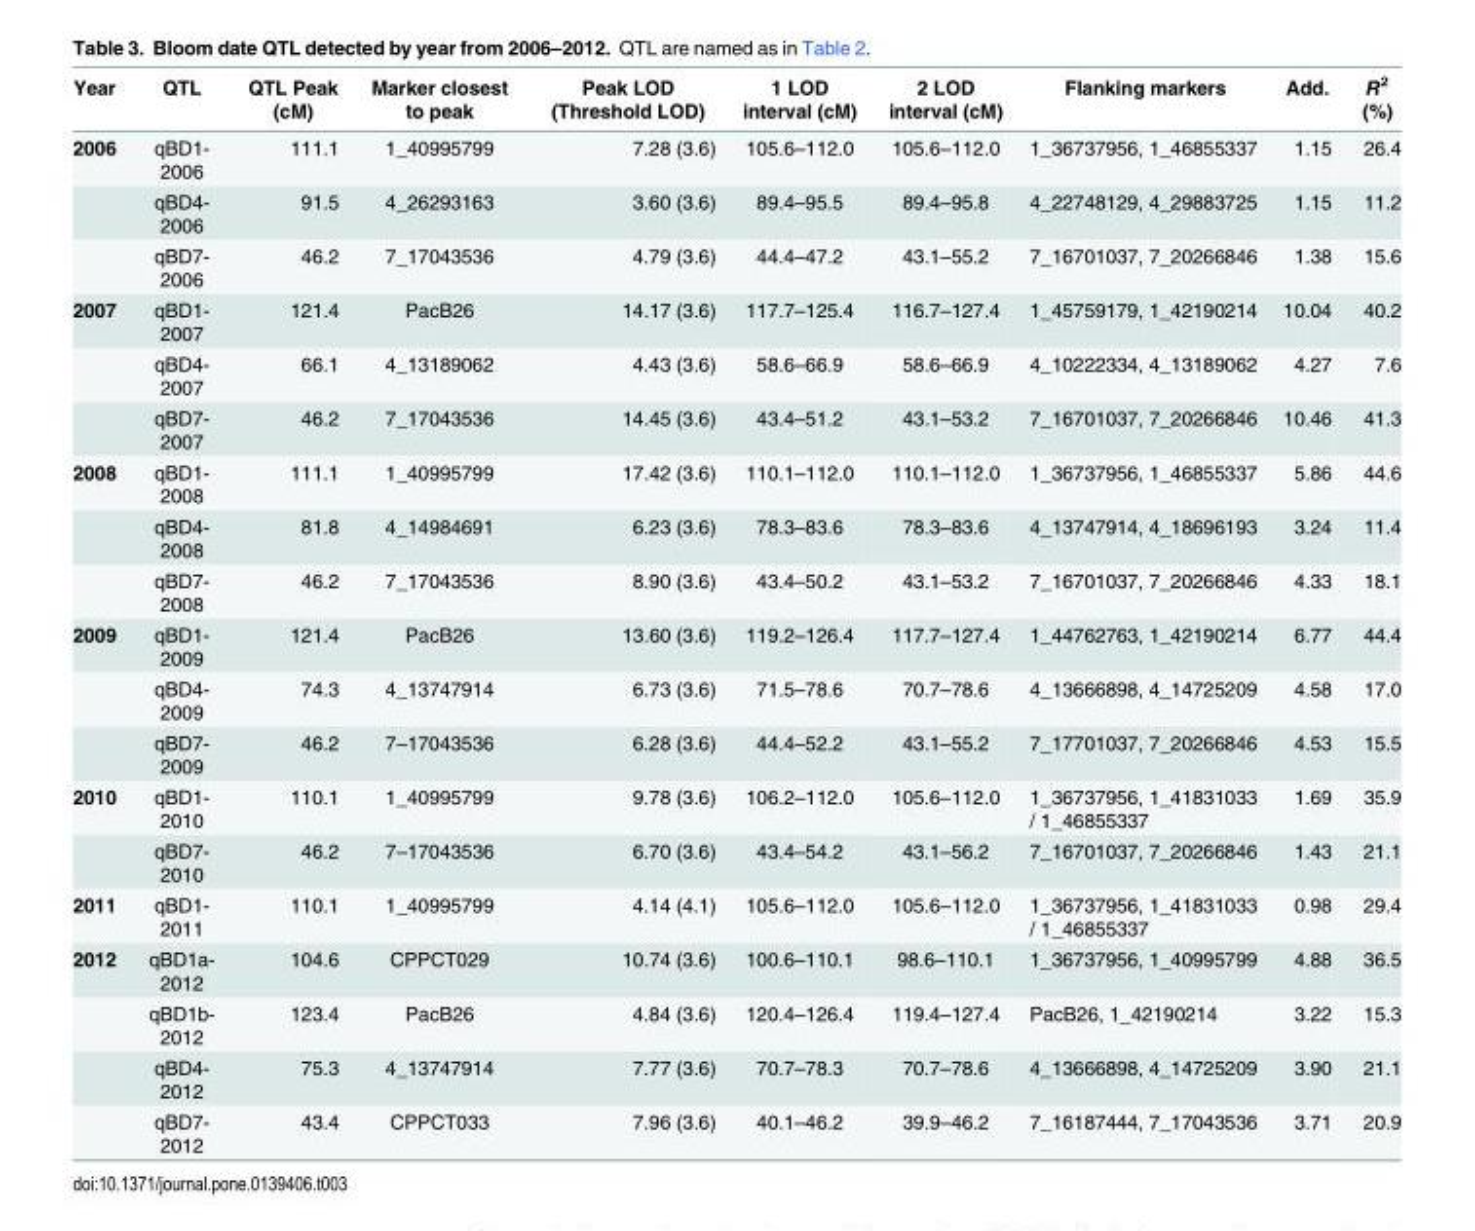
<table><thead><tr><td>Year</td><td>QTL</td><td>QTL Peak (cM)</td><td>Marker closest to peak</td><td>Peak LOD (Threshold LOD)</td><td>1 LOD interval (cM)</td><td>2 LOD interval (cM)</td><td>Flanking markers</td><td>Add.</td><td>R<sup>2</sup> (%)</td></tr></thead><tbody><tr><td rowspan="3">2006</td><td>qBD1- 2006</td><td>111.1</td><td>1_40995799</td><td>7.28 (3.6)</td><td>105.6–112.0</td><td>105.6–112.0</td><td>1_36737956, 1_46855337</td><td>1.15</td><td>26.4</td></tr><tr><td>qBD4- 2006</td><td>91.5</td><td>4_26293163</td><td>3.60 (3.6)</td><td>89.4–95.5</td><td>89.4–95.8</td><td>4_22748129, 4_29883725</td><td>1.15</td><td>11.2</td></tr><tr><td>qBD7- 2006</td><td>46.2</td><td>7_17043536</td><td>4.79 (3.6)</td><td>44.4–47.2</td><td>43.1–55.2</td><td>7_16701037, 7_20266846</td><td>1.38</td><td>15.6</td></tr><tr><td rowspan="3">2007</td><td>qBD1- 2007</td><td>121.4</td><td>PacB26</td><td>14.17 (3.6)</td><td>117.7–125.4</td><td>116.7–127.4</td><td>1_45759179, 1_42190214</td><td>10.04</td><td>40.2</td></tr><tr><td>qBD4- 2007</td><td>66.1</td><td>4_13189062</td><td>4.43 (3.6)</td><td>58.6–66.9</td><td>58.6–66.9</td><td>4_10222334, 4_13189062</td><td>4.27</td><td>7.6</td></tr><tr><td>qBD7- 2007</td><td>46.2</td><td>7_17043536</td><td>14.45 (3.6)</td><td>43.4–51.2</td><td>43.1–53.2</td><td>7_16701037, 7_20266846</td><td>10.46</td><td>41.3</td></tr><tr><td rowspan="3">2008</td><td>qBD1- 2008</td><td>111.1</td><td>1_40995799</td><td>17.42 (3.6)</td><td>110.1–112.0</td><td>110.1–112.0</td><td>1_36737956, 1_46855337</td><td>5.86</td><td>44.6</td></tr><tr><td>qBD4- 2008</td><td>81.8</td><td>4_14984691</td><td>6.23 (3.6)</td><td>78.3–83.6</td><td>78.3–83.6</td><td>4_13747914, 4_18696193</td><td>3.24</td><td>11.4</td></tr><tr><td>qBD7- 2008</td><td>46.2</td><td>7_17043536</td><td>8.90 (3.6)</td><td>43.4–50.2</td><td>43.1–53.2</td><td>7_16701037, 7_20266846</td><td>4.33</td><td>18.1</td></tr><tr><td rowspan="3">2009</td><td>qBD1- 2009</td><td>121.4</td><td>PacB26</td><td>13.60 (3.6)</td><td>119.2–126.4</td><td>117.7–127.4</td><td>1_44762763, 1_42190214</td><td>6.77</td><td>44.4</td></tr><tr><td>qBD4- 2009</td><td>74.3</td><td>4_13747914</td><td>6.73 (3.6)</td><td>71.5–78.6</td><td>70.7–78.6</td><td>4_13666898, 4_14725209</td><td>4.58</td><td>17.0</td></tr><tr><td>qBD7- 2009</td><td>46.2</td><td>7–17043536</td><td>6.28 (3.6)</td><td>44.4–52.2</td><td>43.1–55.2</td><td>7_17701037, 7_20266846</td><td>4.53</td><td>15.5</td></tr><tr><td rowspan="2">2010</td><td>qBD1- 2010</td><td>110.1</td><td>1_40995799</td><td>9.78 (3.6)</td><td>106.2–112.0</td><td>105.6–112.0</td><td>1_36737956, 1_41831033 / 1_46855337</td><td>1.69</td><td>35.9</td></tr><tr><td>qBD7- 2010</td><td>46.2</td><td>7–17043536</td><td>6.70 (3.6)</td><td>43.4–54.2</td><td>43.1–56.2</td><td>7_16701037, 7_20266846</td><td>1.43</td><td>21.1</td></tr><tr><td>2011</td><td>qBD1- 2011</td><td>110.1</td><td>1_40995799</td><td>4.14 (4.1)</td><td>105.6–112.0</td><td>105.6–112.0</td><td>1_36737956, 1_41831033 / 1_46855337</td><td>0.98</td><td>29.4</td></tr><tr><td rowspan="4">2012</td><td>qBD1a- 2012</td><td>104.6</td><td>CPPCT029</td><td>10.74 (3.6)</td><td>100.6–110.1</td><td>98.6–110.1</td><td>1_36737956, 1_40995799</td><td>4.88</td><td>36.5</td></tr><tr><td>qBD1b- 2012</td><td>123.4</td><td>PacB26</td><td>4.84 (3.6)</td><td>120.4–126.4</td><td>119.4–127.4</td><td>PacB26, 1_42190214</td><td>3.22</td><td>15.3</td></tr><tr><td>qBD4- 2012</td><td>75.3</td><td>4_13747914</td><td>7.77 (3.6)</td><td>70.7–78.3</td><td>70.7–78.6</td><td>4_13666898, 4_14725209</td><td>3.90</td><td>21.1</td></tr><tr><td>qBD7- 2012</td><td>43.4</td><td>CPPCT033</td><td>7.96 (3.6)</td><td>40.1–46.2</td><td>39.9–46.2</td><td>7_16187444, 7_17043536</td><td>3.71</td><td>20.9</td></tr></tbody></table>